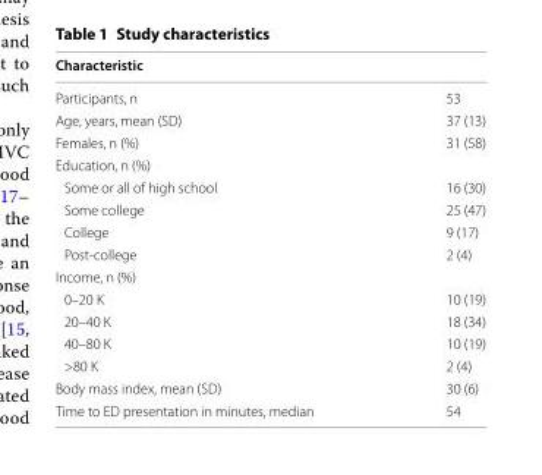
<table><thead><tr><td>Characteristic</td><td></td></tr></thead><tbody><tr><td>Participants, n</td><td>53</td></tr><tr><td>Age, years, mean (SD)</td><td>37 (13)</td></tr><tr><td>Females, n (%)</td><td>31 (58)</td></tr><tr><td colspan="2">Education, n (%)</td></tr><tr><td>Some or all of high school</td><td>16 (30)</td></tr><tr><td>Some college</td><td>25 (47)</td></tr><tr><td>College</td><td>9 (17)</td></tr><tr><td>Post‑college</td><td>2 (4)</td></tr><tr><td colspan="2">Income, n (%)</td></tr><tr><td>0–20 K</td><td>10 (19)</td></tr><tr><td>20–40 K</td><td>18 (34)</td></tr><tr><td>40–80 K</td><td>10 (19)</td></tr><tr><td>&gt;80 K</td><td>2 (4)</td></tr><tr><td>Body mass index, mean (SD)</td><td>30 (6)</td></tr><tr><td>Time to ED presentation in minutes, median</td><td>54</td></tr></tbody></table>